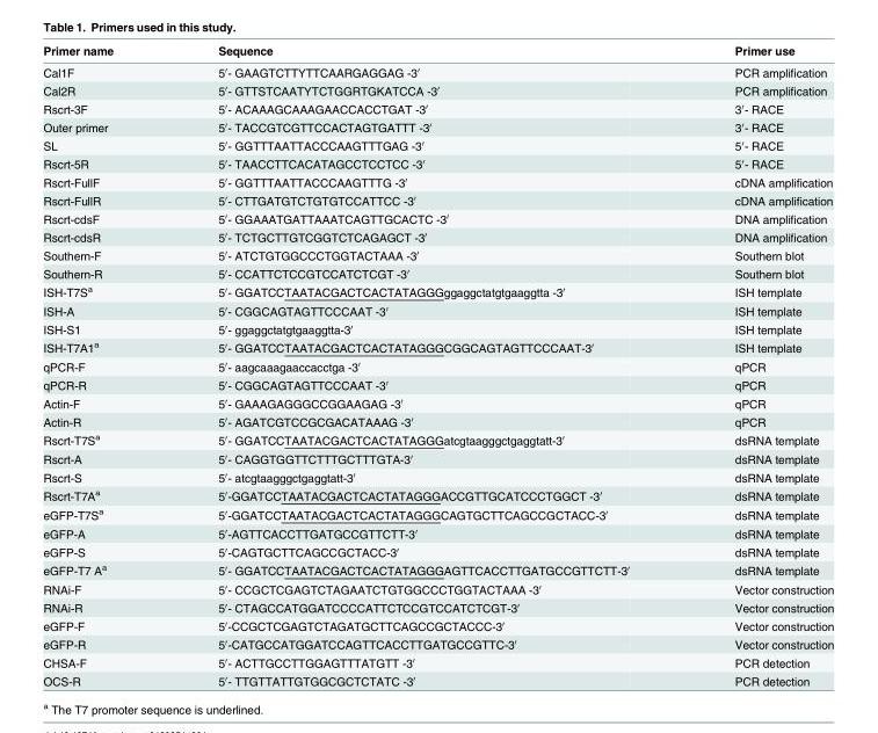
<table><thead><tr><td>Primer name</td><td>Sequence</td><td>Primer use</td></tr></thead><tbody><tr><td>Cal1F</td><td>5′- GAAGTCTTYTTCAARGAGGAG -3′</td><td>PCR amplification</td></tr><tr><td>Cal2R</td><td>5′- GTTSTCAATYTCTGGRTGKATCCA -3′</td><td>PCR amplification</td></tr><tr><td>Rscrt-3F</td><td>5′- ACAAAGCAAAGAACCACCTGAT -3′</td><td>3′- RACE</td></tr><tr><td>Outer primer</td><td>5′- TACCGTCGTTCCACTAGTGATTT -3′</td><td>3′- RACE</td></tr><tr><td>SL</td><td>5′- GGTTTAATTACCCAAGTTTGAG -3′</td><td>5′- RACE</td></tr><tr><td>Rscrt-5R</td><td>5′- TAACCTTCACATAGCCTCCTCC -3′</td><td>5′- RACE</td></tr><tr><td>Rscrt-FullF</td><td>5′- GGTTTAATTACCCAAGTTTG -3′</td><td>cDNA amplification</td></tr><tr><td>Rscrt-FullR</td><td>5′- CTTGATGTCTGTGTCCATTCC -3′</td><td>cDNA amplification</td></tr><tr><td>Rscrt-cdsF</td><td>5′- GGAAATGATTAAATCAGTTGCACTC -3′</td><td>DNA amplification</td></tr><tr><td>Rscrt-cdsR</td><td>5′- TCTGCTTGTCGGTCTCAGAGCT -3′</td><td>DNA amplification</td></tr><tr><td>Southern-F</td><td>5′- ATCTGTGGCCCTGGTACTAAA -3′</td><td>Southern blot</td></tr><tr><td>Southern-R</td><td>5′- CCATTCTCCGTCCATCTCGT -3′</td><td>Southern blot</td></tr><tr><td>ISH-T7S<sup>a</sup></td><td>5′- GGATCCTAATACGACTCACTATAGGGggaggctatgtgaaggtta -3′</td><td>ISH template</td></tr><tr><td>ISH-A</td><td>5′- CGGCAGTAGTTCCCAAT -3′</td><td>ISH template</td></tr><tr><td>ISH-S1</td><td>5′- ggaggctatgtgaaggtta-3′</td><td>ISH template</td></tr><tr><td>ISH-T7A1<sup>a</sup></td><td>5′- GGATCCTAATACGACTCACTATAGGGCGGCAGTAGTTCCCAAT-3′</td><td>ISH template</td></tr><tr><td>qPCR-F</td><td>5′- aagcaaagaaccacctga -3′</td><td>qPCR</td></tr><tr><td>qPCR-R</td><td>5′- CGGCAGTAGTTCCCAAT -3′</td><td>qPCR</td></tr><tr><td>Actin-F</td><td>5′- GAAAGAGGGCCGGAAGAG -3′</td><td>qPCR</td></tr><tr><td>Actin-R</td><td>5′- AGATCGTCCGCGACATAAAG -3′</td><td>qPCR</td></tr><tr><td>Rscrt-T7S<sup>a</sup></td><td>5′- GGATCCTAATACGACTCACTATAGGGatcgtaagggctgaggtatt-3′</td><td>dsRNA template</td></tr><tr><td>Rscrt-A</td><td>5′- CAGGTGGTTCTTTGCTTTGTA-3′</td><td>dsRNA template</td></tr><tr><td>Rscrt-S</td><td>5′- atcgtaagggctgaggtatt-3′</td><td>dsRNA template</td></tr><tr><td>Rscrt-T7A<sup>a</sup></td><td>5′-GGATCCTAATACGACTCACTATAGGGACCGTTGCATCCCTGGCT -3′</td><td>dsRNA template</td></tr><tr><td>eGFP-T7S<sup>a</sup></td><td>5′-GGATCCTAATACGACTCACTATAGGGCAGTGCTTCAGCCGCTACC-3′</td><td>dsRNA template</td></tr><tr><td>eGFP-A</td><td>5′-AGTTCACCTTGATGCCGTTCTT-3′</td><td>dsRNA template</td></tr><tr><td>eGFP-S</td><td>5′-CAGTGCTTCAGCCGCTACC-3′</td><td>dsRNA template</td></tr><tr><td>eGFP-T7 A<sup>a</sup></td><td>5′- GGATCCTAATACGACTCACTATAGGGAGTTCACCTTGATGCCGTTCTT-3′</td><td>dsRNA template</td></tr><tr><td>RNAi-F</td><td>5′- CCGCTCGAGTCTAGAATCTGTGGCCCTGGTACTAAA -3′</td><td>Vector construction</td></tr><tr><td>RNAi-R</td><td>5′- CTAGCCATGGATCCCCATTCTCCGTCCATCTCGT-3′</td><td>Vector construction</td></tr><tr><td>eGFP-F</td><td>5′-CCGCTCGAGTCTAGATGCTTCAGCCGCTACCC-3′</td><td>Vector construction</td></tr><tr><td>eGFP-R</td><td>5′-CATGCCATGGATCCAGTTCACCTTGATGCCGTTC-3′</td><td>Vector construction</td></tr><tr><td>CHSA-F</td><td>5′- ACTTGCCTTGGAGTTTATGTT -3′</td><td>PCR detection</td></tr><tr><td>OCS-R</td><td>5′- TTGTTATTGTGGCGCTCTATC -3′</td><td>PCR detection</td></tr></tbody></table>